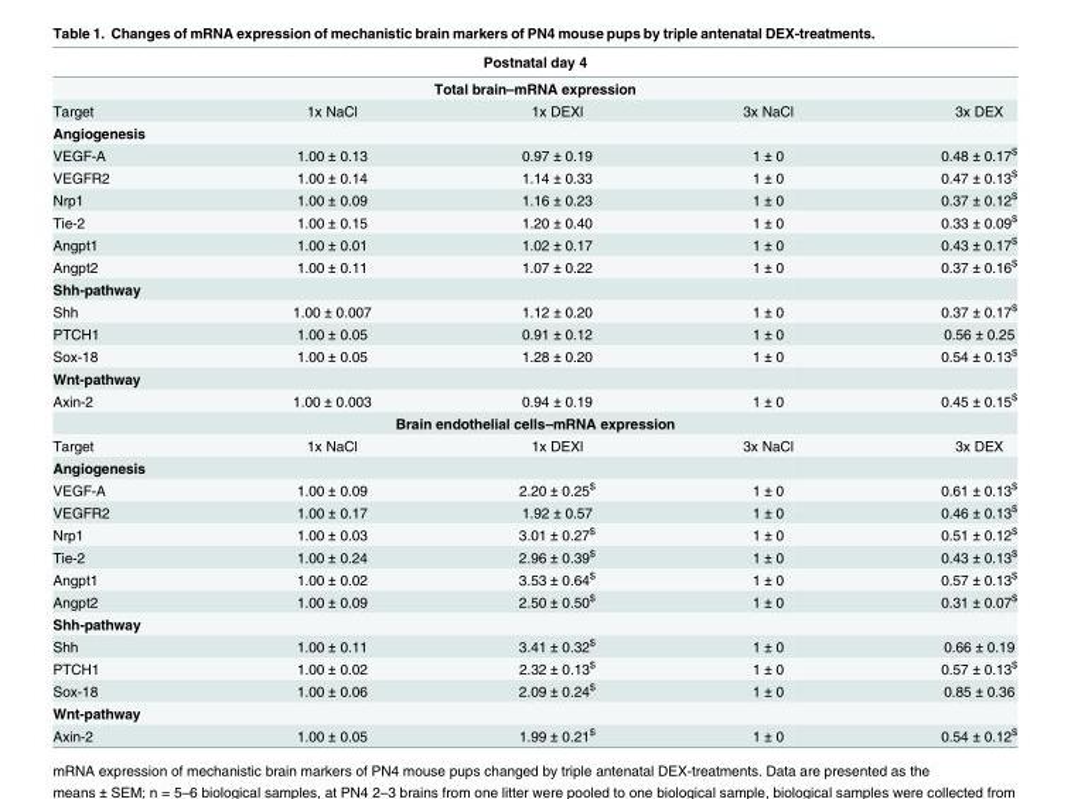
<table><thead><tr><td rowspan="2" colspan="5">Postnatal day 4 Total brain–mRNA expression</td></tr><tr></tr><tr><td>Target</td><td>1x NaCl</td><td>1x DEXl</td><td>3x NaCl</td><td>3x DEX</td></tr></thead><tbody><tr><td colspan="5">Angiogenesis</td></tr><tr><td>VEGF-A</td><td>1.00 ± 0.13</td><td>0.97 ± 0.19</td><td>1 ± 0</td><td>0.48 ± 0.17<sup>$</sup></td></tr><tr><td>VEGFR2</td><td>1.00 ± 0.14</td><td>1.14 ± 0.33</td><td>1 ± 0</td><td>0.47 ± 0.13<sup>$</sup></td></tr><tr><td>Nrp1</td><td>1.00 ± 0.09</td><td>1.16 ± 0.23</td><td>1 ± 0</td><td>0.37 ± 0.12<sup>$</sup></td></tr><tr><td>Tie-2</td><td>1.00 ± 0.15</td><td>1.20 ± 0.40</td><td>1 ± 0</td><td>0.33 ± 0.09<sup>$</sup></td></tr><tr><td>Angpt1</td><td>1.00 ± 0.01</td><td>1.02 ± 0.17</td><td>1 ± 0</td><td>0.43 ± 0.17<sup>$</sup></td></tr><tr><td>Angpt2</td><td>1.00 ± 0.11</td><td>1.07 ± 0.22</td><td>1 ± 0</td><td>0.37 ± 0.16<sup>$</sup></td></tr><tr><td colspan="5">Shh-pathway</td></tr><tr><td>Shh</td><td>1.00 ± 0.007</td><td>1.12 ± 0.20</td><td>1 ± 0</td><td>0.37 ± 0.17<sup>$</sup></td></tr><tr><td>PTCH1</td><td>1.00 ± 0.05</td><td>0.91 ± 0.12</td><td>1 ± 0</td><td>0.56 ± 0.25</td></tr><tr><td>Sox-18</td><td>1.00 ± 0.05</td><td>1.28 ± 0.20</td><td>1 ± 0</td><td>0.54 ± 0.13<sup>$</sup></td></tr><tr><td colspan="5">Wnt-pathway</td></tr><tr><td>Axin-2</td><td>1.00 ± 0.003</td><td>0.94 ± 0.19</td><td>1 ± 0</td><td>0.45 ± 0.15<sup>$</sup></td></tr><tr><td colspan="5">Brain endothelial cells–mRNA expression</td></tr><tr><td>Target</td><td>1x NaCl</td><td>1x DEXl</td><td>3x NaCl</td><td>3x DEX</td></tr><tr><td colspan="5">Angiogenesis</td></tr><tr><td>VEGF-A</td><td>1.00 ± 0.09</td><td>2.20 ± 0.25<sup>$</sup></td><td>1 ± 0</td><td>0.61 ± 0.13<sup>$</sup></td></tr><tr><td>VEGFR2</td><td>1.00 ± 0.17</td><td>1.92 ± 0.57</td><td>1 ± 0</td><td>0.46 ± 0.13<sup>$</sup></td></tr><tr><td>Nrp1</td><td>1.00 ± 0.03</td><td>3.01 ± 0.27<sup>$</sup></td><td>1 ± 0</td><td>0.51 ± 0.12<sup>$</sup></td></tr><tr><td>Tie-2</td><td>1.00 ± 0.24</td><td>2.96 ± 0.39<sup>$</sup></td><td>1 ± 0</td><td>0.43 ± 0.13<sup>$</sup></td></tr><tr><td>Angpt1</td><td>1.00 ± 0.02</td><td>3.53 ± 0.64<sup>$</sup></td><td>1 ± 0</td><td>0.57 ± 0.13<sup>$</sup></td></tr><tr><td>Angpt2</td><td>1.00 ± 0.09</td><td>2.50 ± 0.50<sup>$</sup></td><td>1 ± 0</td><td>0.31 ± 0.07<sup>$</sup></td></tr><tr><td colspan="5">Shh-pathway</td></tr><tr><td>Shh</td><td>1.00 ± 0.11</td><td>3.41 ± 0.32<sup>$</sup></td><td>1 ± 0</td><td>0.66 ± 0.19</td></tr><tr><td>PTCH1</td><td>1.00 ± 0.02</td><td>2.32 ± 0.13<sup>$</sup></td><td>1 ± 0</td><td>0.57 ± 0.13<sup>$</sup></td></tr><tr><td>Sox-18</td><td>1.00 ± 0.06</td><td>2.09 ± 0.24<sup>$</sup></td><td>1 ± 0</td><td>0.85 ± 0.36</td></tr><tr><td colspan="5">Wnt-pathway</td></tr><tr><td>Axin-2</td><td>1.00 ± 0.05</td><td>1.99 ± 0.21<sup>$</sup></td><td>1 ± 0</td><td>0.54 ± 0.12<sup>$</sup></td></tr></tbody></table>